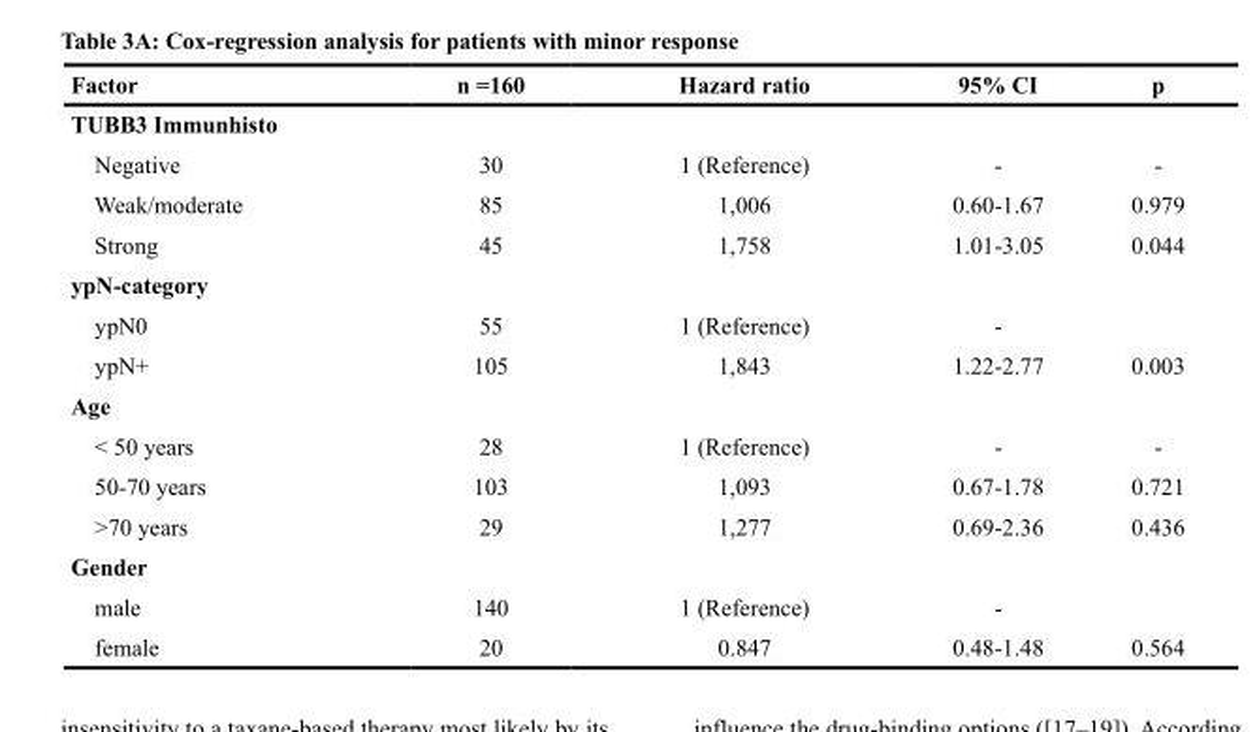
<table><thead><tr><td>Factor</td><td>n =160</td><td>Hazard ratio</td><td>95% CI</td><td>p</td></tr></thead><tbody><tr><td colspan="5">TUBB3 Immunhisto</td></tr><tr><td>Negative</td><td>30</td><td>1 (Reference)</td><td>-</td><td>-</td></tr><tr><td>Weak/moderate</td><td>85</td><td>1,006</td><td>0.60-1.67</td><td>0.979</td></tr><tr><td>Strong</td><td>45</td><td>1,758</td><td>1.01-3.05</td><td>0.044</td></tr><tr><td colspan="5">ypN-category</td></tr><tr><td>ypN0</td><td>55</td><td>1 (Reference)</td><td>-</td><td></td></tr><tr><td>ypN+</td><td>105</td><td>1,843</td><td>1.22-2.77</td><td>0.003</td></tr><tr><td colspan="5">Age</td></tr><tr><td>&lt; 50 years</td><td>28</td><td>1 (Reference)</td><td>-</td><td>-</td></tr><tr><td>50-70 years</td><td>103</td><td>1,093</td><td>0.67-1.78</td><td>0.721</td></tr><tr><td>&gt;70 years</td><td>29</td><td>1,277</td><td>0.69-2.36</td><td>0.436</td></tr><tr><td colspan="5">Gender</td></tr><tr><td>male</td><td>140</td><td>1 (Reference)</td><td>-</td><td></td></tr><tr><td>female</td><td>20</td><td>0.847</td><td>0.48-1.48</td><td>0.564</td></tr></tbody></table>